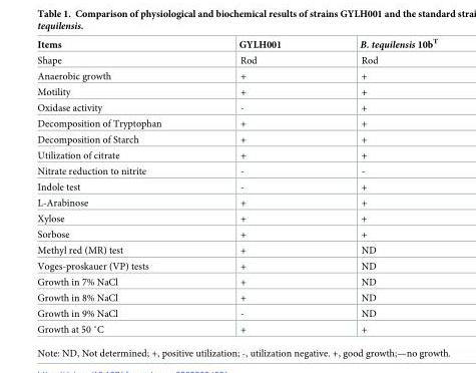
<table><thead><tr><td>Items</td><td>GYLH001</td><td>B. tequilensis 10b<sup>T</sup></td></tr></thead><tbody><tr><td>Shape</td><td>Rod</td><td>Rod</td></tr><tr><td>Anaerobic growth</td><td>+</td><td>+</td></tr><tr><td>Motility</td><td>+</td><td>+</td></tr><tr><td>Oxidase activity</td><td>-</td><td>+</td></tr><tr><td>Decomposition of Tryptophan</td><td>+</td><td>+</td></tr><tr><td>Decomposition of Starch</td><td>+</td><td>+</td></tr><tr><td>Utilization of citrate</td><td>+</td><td>+</td></tr><tr><td>Nitrate reduction to nitrite</td><td>-</td><td>-</td></tr><tr><td>Indole test</td><td>-</td><td>+</td></tr><tr><td>L-Arabinose</td><td>+</td><td>+</td></tr><tr><td>Xylose</td><td>+</td><td>+</td></tr><tr><td>Sorbose</td><td>+</td><td>+</td></tr><tr><td>Methyl red (MR) test</td><td>+</td><td>ND</td></tr><tr><td>Voges-proskauer (VP) tests</td><td>+</td><td>ND</td></tr><tr><td>Growth in 7% NaCl</td><td>+</td><td>ND</td></tr><tr><td>Growth in 8% NaCl</td><td>+</td><td>ND</td></tr><tr><td>Growth in 9% NaCl</td><td>-</td><td>ND</td></tr><tr><td>Growth at 50 ˚C</td><td>+</td><td>+</td></tr></tbody></table>